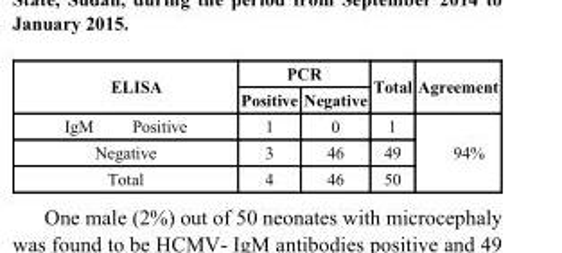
<table><thead><tr><td rowspan="2">ELISA</td><td colspan="2">PCR</td><td rowspan="2">Total</td><td rowspan="2">Agreement</td></tr><tr><td>Positive</td><td>Negative</td></tr></thead><tbody><tr><td>IgM Positive</td><td>1</td><td>0</td><td>1</td><td rowspan="3">94%</td></tr><tr><td>Negative</td><td>3</td><td>46</td><td>49</td></tr><tr><td>Total</td><td>4</td><td>46</td><td>50</td></tr></tbody></table>